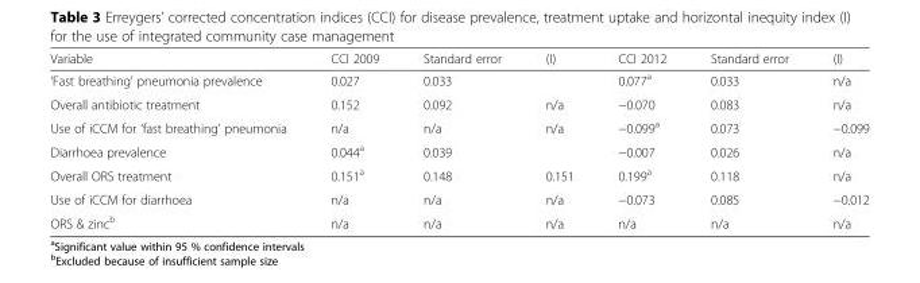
<table><thead><tr><td>Variable</td><td>CCI 2009</td><td>Standard error</td><td>(I)</td><td>CCI 2012</td><td>Standard error</td><td>(I)</td></tr></thead><tbody><tr><td>‘Fast breathing’ pneumonia prevalence</td><td>0.027</td><td>0.033</td><td></td><td>0.077<sup>a</sup></td><td>0.033</td><td>n/a</td></tr><tr><td>Overall antibiotic treatment</td><td>0.152</td><td>0.092</td><td>n/a</td><td>−0.070</td><td>0.083</td><td>n/a</td></tr><tr><td>Use of iCCM for ‘fast breathing’ pneumonia</td><td>n/a</td><td>n/a</td><td>n/a</td><td>−0.099<sup>a</sup></td><td>0.073</td><td>−0.099</td></tr><tr><td>Diarrhoea prevalence</td><td>0.044<sup>a</sup></td><td>0.039</td><td></td><td>−0.007</td><td>0.026</td><td>n/a</td></tr><tr><td>Overall ORS treatment</td><td>0.151<sup>a</sup></td><td>0.148</td><td>0.151</td><td>0.199<sup>a</sup></td><td>0.118</td><td>n/a</td></tr><tr><td>Use of iCCM for diarrhoea</td><td>n/a</td><td>n/a</td><td>n/a</td><td>−0.073</td><td>0.085</td><td>−0.012</td></tr><tr><td>ORS &amp; zinc<sup>b</sup></td><td>n/a</td><td>n/a</td><td>n/a</td><td>n/a</td><td>n/a</td><td>n/a</td></tr></tbody></table>